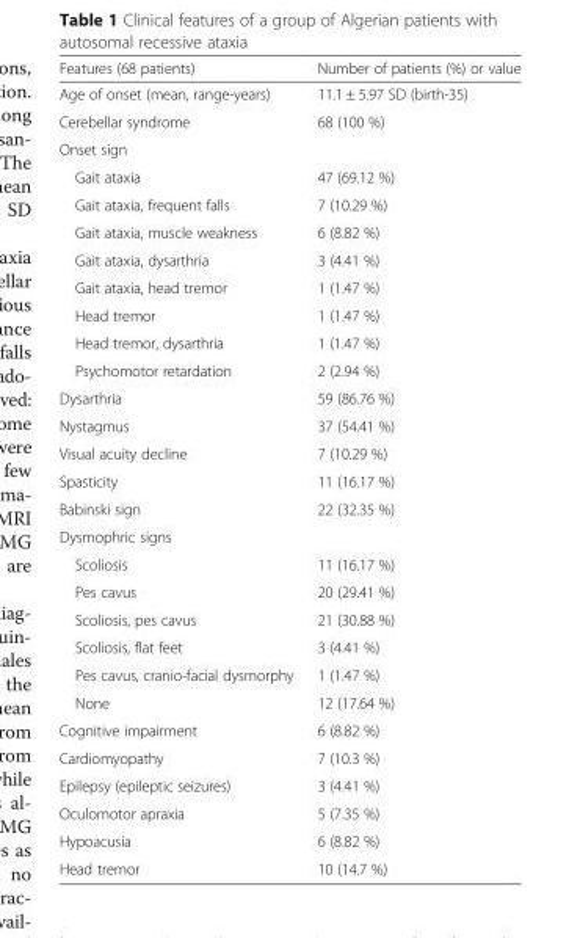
<table><thead><tr><td>Features (68 patients)</td><td>Number of patients (%) or value</td></tr></thead><tbody><tr><td>Age of onset (mean, range-years)</td><td>11.1 ± 5.97 SD (birth-35)</td></tr><tr><td>Cerebellar syndrome</td><td>68 (100 %)</td></tr><tr><td colspan="2">Onset sign</td></tr><tr><td>Gait ataxia</td><td>47 (69.12 %)</td></tr><tr><td>Gait ataxia, frequent falls</td><td>7 (10.29 %)</td></tr><tr><td>Gait ataxia, muscle weakness</td><td>6 (8.82 %)</td></tr><tr><td>Gait ataxia, dysarthria</td><td>3 (4.41 %)</td></tr><tr><td>Gait ataxia, head tremor</td><td>1 (1.47 %)</td></tr><tr><td>Head tremor</td><td>1 (1.47 %)</td></tr><tr><td>Head tremor, dysarthria</td><td>1 (1.47 %)</td></tr><tr><td>Psychomotor retardation</td><td>2 (2.94 %)</td></tr><tr><td>Dysarthria</td><td>59 (86.76 %)</td></tr><tr><td>Nystagmus</td><td>37 (54.41 %)</td></tr><tr><td>Visual acuity decline</td><td>7 (10.29 %)</td></tr><tr><td>Spasticity</td><td>11 (16.17 %)</td></tr><tr><td>Babinski sign</td><td>22 (32.35 %)</td></tr><tr><td colspan="2">Dysmophric signs</td></tr><tr><td>Scoliosis</td><td>11 (16.17 %)</td></tr><tr><td>Pes cavus</td><td>20 (29.41 %)</td></tr><tr><td>Scoliosis, pes cavus</td><td>21 (30.88 %)</td></tr><tr><td>Scoliosis, flat feet</td><td>3 (4.41 %)</td></tr><tr><td>Pes cavus, cranio-facial dysmorphy</td><td>1 (1.47 %)</td></tr><tr><td>None</td><td>12 (17.64 %)</td></tr><tr><td>Cognitive impairment</td><td>6 (8.82 %)</td></tr><tr><td>Cardiomyopathy</td><td>7 (10.3 %)</td></tr><tr><td>Epilepsy (epileptic seizures)</td><td>3 (4.41 %)</td></tr><tr><td>Oculomotor apraxia</td><td>5 (7.35 %)</td></tr><tr><td>Hypoacusia</td><td>6 (8.82 %)</td></tr><tr><td>Head tremor</td><td>10 (14.7 %)</td></tr></tbody></table>